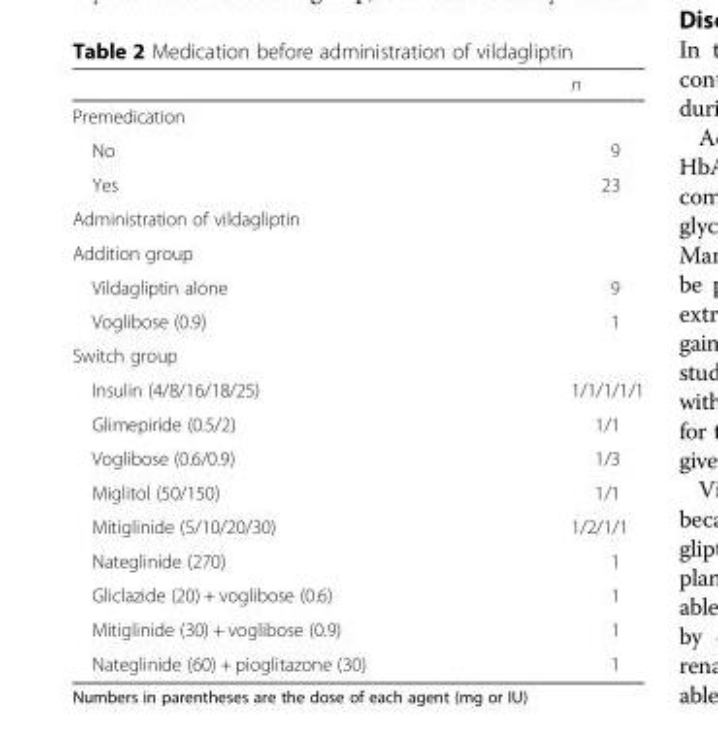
<table><thead><tr><td></td><td>n</td></tr></thead><tbody><tr><td colspan="2">Premedication</td></tr><tr><td>No</td><td>9</td></tr><tr><td>Yes</td><td>23</td></tr><tr><td colspan="2">Administration of vildagliptin</td></tr><tr><td colspan="2">Addition group</td></tr><tr><td>Vildagliptin alone</td><td>9</td></tr><tr><td>Voglibose (0.9)</td><td>1</td></tr><tr><td colspan="2">Switch group</td></tr><tr><td>Insulin (4/8/16/18/25)</td><td>1/1/1/1/1</td></tr><tr><td>Glimepiride (0.5/2)</td><td>1/1</td></tr><tr><td>Voglibose (0.6/0.9)</td><td>1/3</td></tr><tr><td>Miglitol (50/150)</td><td>1/1</td></tr><tr><td>Mitiglinide (5/10/20/30)</td><td>1/2/1/1</td></tr><tr><td>Nateglinide (270)</td><td>1</td></tr><tr><td>Gliclazide (20) + voglibose (0.6)</td><td>1</td></tr><tr><td>Mitiglinide (30) + voglibose (0.9)</td><td>1</td></tr><tr><td>Nateglinide (60) + pioglitazone (30)</td><td>1</td></tr></tbody></table>